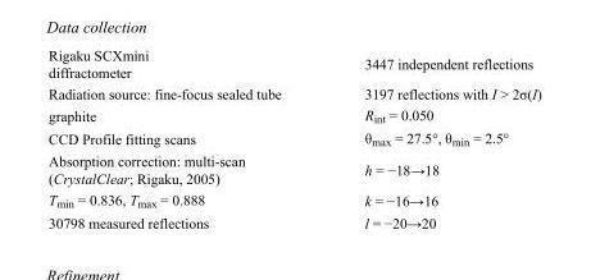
<table><tbody><tr><td>Rigaku SCXmini diffractometer</td><td>3447 independent reflections</td></tr><tr><td>Radiation source: fine-focus sealed tube</td><td>3197 reflections with I &gt; 2σ(I)</td></tr><tr><td>graphite</td><td>R<sub>int</sub> = 0.050</td></tr><tr><td>CCD Profile fitting scans</td><td>θ<sub>max</sub> = 27.5°, θ<sub>min</sub> = 2.5°</td></tr><tr><td>Absorption correction: multi-scan (CrystalClear; Rigaku, 2005)</td><td>h = −18→18</td></tr><tr><td>T<sub>min</sub> = 0.836, T<sub>max</sub> = 0.888</td><td>k = −16→16</td></tr><tr><td>30798 measured reflections</td><td>l = −20→20</td></tr></tbody></table>